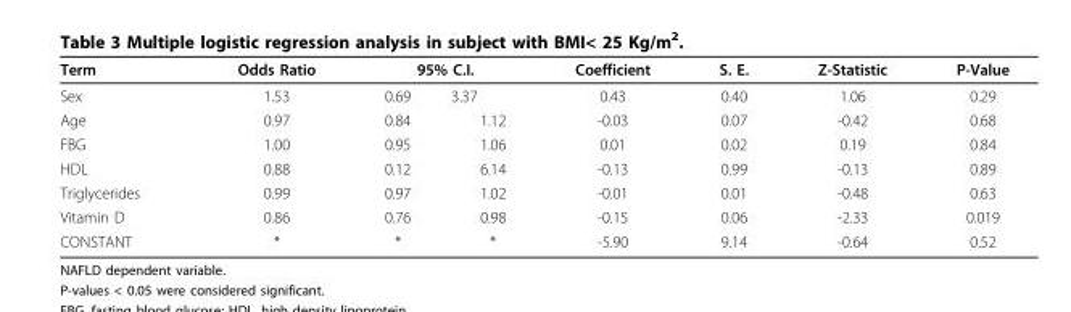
<table><thead><tr><td rowspan="2">Term Sex</td><td rowspan="2">Odds Ratio 1.53</td><td colspan="2">95% C.I.</td><td rowspan="2">Coefficient 0.43</td><td rowspan="2">S. E. 0.40</td><td rowspan="2">Z-Statistic 1.06</td><td rowspan="2">P-Value 0.29</td></tr><tr><td>0.69</td><td>3.37</td></tr></thead><tbody><tr><td>Age</td><td>0.97</td><td>0.84</td><td>1.12</td><td>-0.03</td><td>0.07</td><td>-0.42</td><td>0.68</td></tr><tr><td>FBG</td><td>1.00</td><td>0.95</td><td>1.06</td><td>0.01</td><td>0.02</td><td>0.19</td><td>0.84</td></tr><tr><td>HDL</td><td>0.88</td><td>0.12</td><td>6.14</td><td>-0.13</td><td>0.99</td><td>-0.13</td><td>0.89</td></tr><tr><td>Triglycerides</td><td>0.99</td><td>0.97</td><td>1.02</td><td>-0.01</td><td>0.01</td><td>-0.48</td><td>0.63</td></tr><tr><td>Vitamin D</td><td>0.86</td><td>0.76</td><td>0.98</td><td>-0.15</td><td>0.06</td><td>-2.33</td><td>0.019</td></tr><tr><td>CONSTANT</td><td>*</td><td>*</td><td>*</td><td>-5.90</td><td>9.14</td><td>-0.64</td><td>0.52</td></tr></tbody></table>